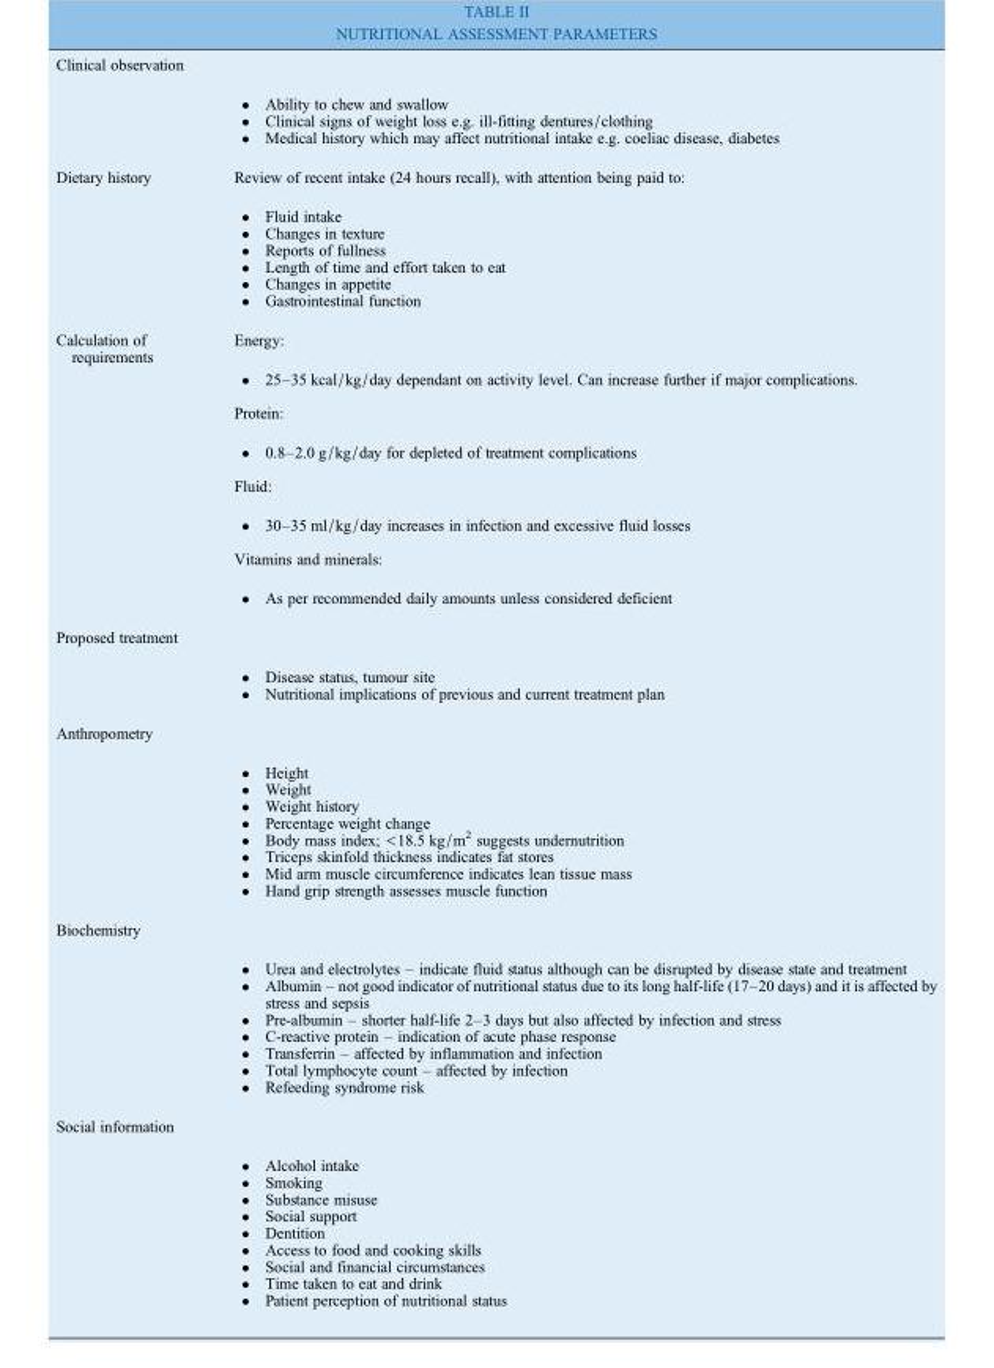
<table><tbody><tr><td>Clinical observation</td><td>• Ability to chew and swallow • Clinical signs of weight loss e.g. ill-fitting dentures/clothing • Medical history which may affect nutritional intake e.g. coeliac disease, diabetes</td></tr><tr><td>Dietary history</td><td>Review of recent intake (24 hours recall), with attention being paid to: • Fluid intake • Changes in texture • Reports of fullness • Length of time and effort taken to eat • Changes in appetite • Gastrointestinal function</td></tr><tr><td>Calculation of requirements</td><td>Energy: • 25–35 kcal/kg/day dependant on activity level. Can increase further if major complications. Protein: • 0.8–2.0 g/kg/day for depleted of treatment complications Fluid: • 30–35 ml/kg/day increases in infection and excessive fluid losses Vitamins and minerals: • As per recommended daily amounts unless considered deficient</td></tr><tr><td>Proposed treatment</td><td>• Disease status, tumour site • Nutritional implications of previous and current treatment plan</td></tr><tr><td>Anthropometry</td><td>• Height • Weight • Weight history • Percentage weight change • Body mass index; &lt;18.5 kg/m2 suggests undernutrition • Triceps skinfold thickness indicates fat stores • Mid arm muscle circumference indicates lean tissue mass • Hand grip strength assesses muscle function</td></tr><tr><td>Biochemistry</td><td>• Urea and electrolytes – indicate fluid status although can be disrupted by disease state and treatment • Albumin – not good indicator of nutritional status due to its long half-life (17–20 days) and it is affected by stress and sepsis • Pre-albumin – shorter half-life 2–3 days but also affected by infection and stress • C-reactive protein – indication of acute phase response • Transferrin – affected by inflammation and infection • Total lymphocyte count – affected by infection • Refeeding syndrome risk</td></tr><tr><td>Social information</td><td>• Alcohol intake • Smoking • Substance misuse • Social support • Dentition • Access to food and cooking skills • Social and financial circumstances • Time taken to eat and drink • Patient perception of nutritional status</td></tr></tbody></table>